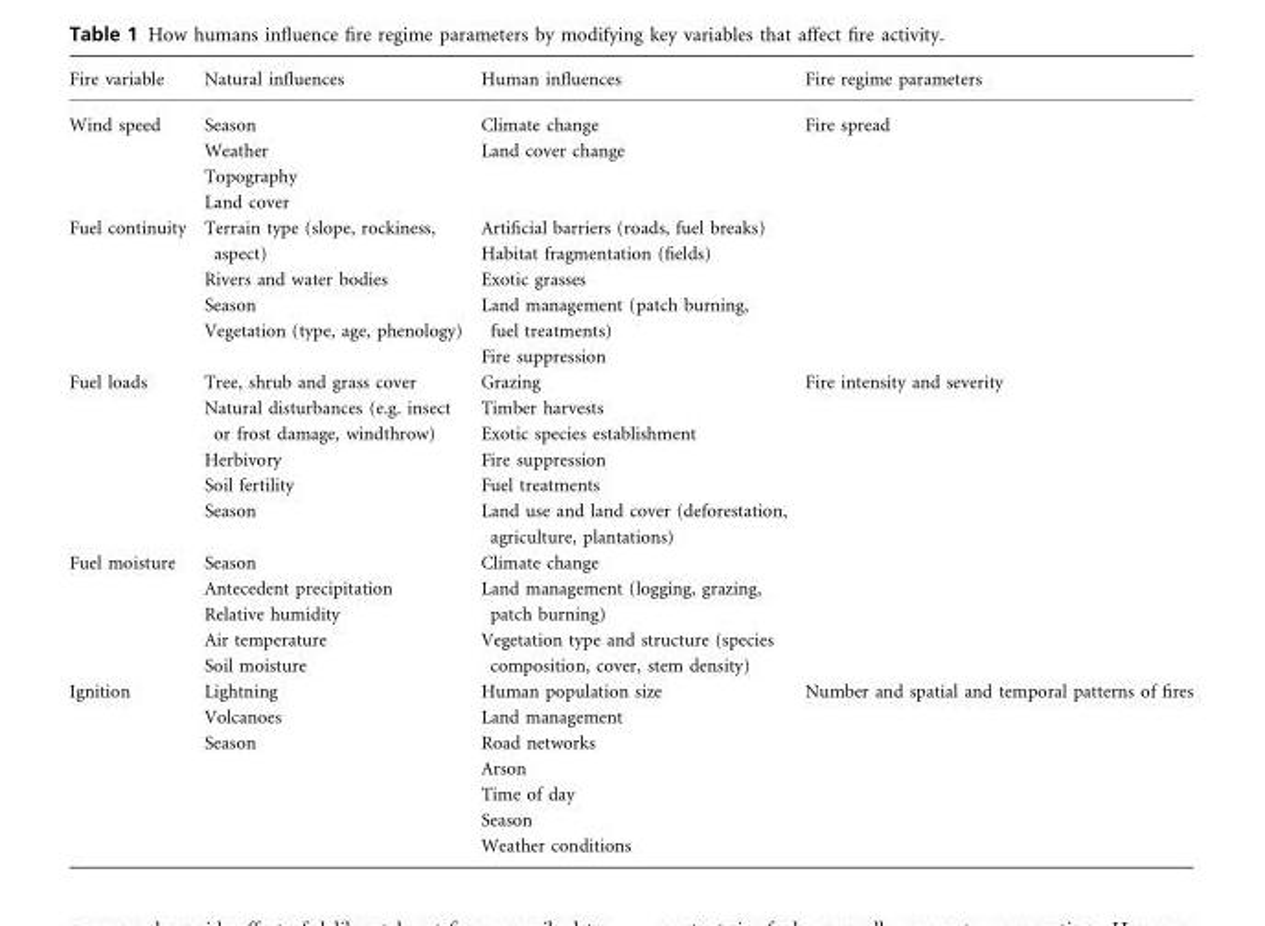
<table><thead><tr><td>Fire variable</td><td>Natural influences</td><td>Human influences</td><td>Fire regime parameters</td></tr></thead><tbody><tr><td>Wind speed</td><td>Season Weather Topography Land cover</td><td>Climate change Land cover change</td><td>Fire spread</td></tr><tr><td>Fuel continuity</td><td>Terrain type (slope, rockiness, aspect) Rivers and water bodies Season Vegetation (type, age, phenology)</td><td>Artificial barriers (roads, fuel breaks) Habitat fragmentation (fields) Exotic grasses Land management (patch burning, fuel treatments) Fire suppression</td><td></td></tr><tr><td>Fuel loads</td><td>Tree, shrub and grass cover Natural disturbances (e.g. insect or frost damage, windthrow) Herbivory Soil fertility Season</td><td>Grazing Timber harvests Exotic species establishment Fire suppression Fuel treatments Land use and land cover (deforestation, agriculture, plantations)</td><td>Fire intensity and severity</td></tr><tr><td>Fuel moisture</td><td>Season Antecedent precipitation Relative humidity Air temperature Soil moisture</td><td>Climate change Land management (logging, grazing, patch burning) Vegetation type and structure (species composition, cover, stem density)</td><td></td></tr><tr><td>Ignition</td><td>Lightning Volcanoes Season</td><td>Human population size Land management Road networks Arson Time of day Season Weather conditions</td><td>Number and spatial and temporal patterns of fires</td></tr></tbody></table>